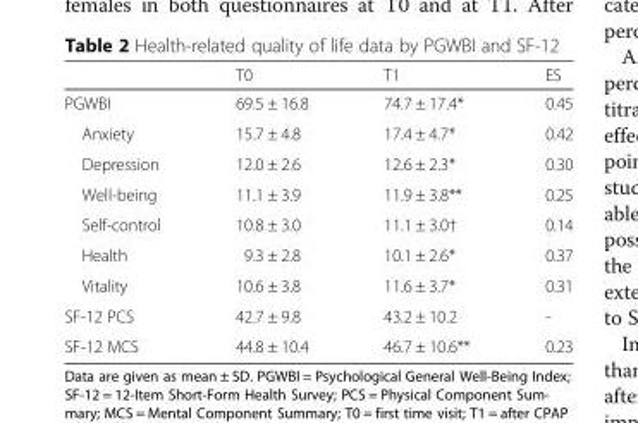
<table><thead><tr><td></td><td>T0</td><td>T1</td><td>ES</td></tr></thead><tbody><tr><td>PGWBI</td><td>69.5 ± 16.8</td><td>74.7 ± 17.4*</td><td>0.45</td></tr><tr><td>Anxiety</td><td>15.7 ± 4.8</td><td>17.4 ± 4.7*</td><td>0.42</td></tr><tr><td>Depression</td><td>12.0 ± 2.6</td><td>12.6 ± 2.3*</td><td>0.30</td></tr><tr><td>Well-being</td><td>11.1 ± 3.9</td><td>11.9 ± 3.8**</td><td>0.25</td></tr><tr><td>Self-control</td><td>10.8 ± 3.0</td><td>11.1 ± 3.0†</td><td>0.14</td></tr><tr><td>Health</td><td>9.3 ± 2.8</td><td>10.1 ± 2.6*</td><td>0.37</td></tr><tr><td>Vitality</td><td>10.6 ± 3.8</td><td>11.6 ± 3.7*</td><td>0.31</td></tr><tr><td>SF-12 PCS</td><td>42.7 ± 9.8</td><td>43.2 ± 10.2</td><td>-</td></tr><tr><td>SF-12 MCS</td><td>44.8 ± 10.4</td><td>46.7 ± 10.6**</td><td>0.23</td></tr></tbody></table>